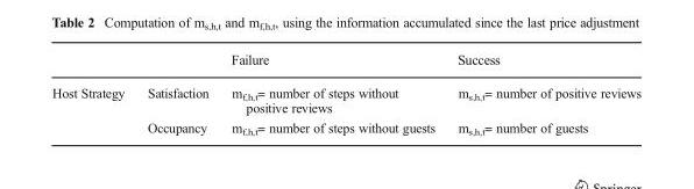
<table><thead><tr><td></td><td></td><td>Failure</td><td>Success</td></tr></thead><tbody><tr><td rowspan="2">Host Strategy</td><td>Satisfaction</td><td>m<sub>f,h,t</sub>= number of steps without positive reviews</td><td>m<sub>s,h,t</sub>= number of positive reviews</td></tr><tr><td>Occupancy</td><td>m<sub>f,h,t</sub>= number of steps without guests</td><td>m<sub>s,h,t</sub>= number of guests</td></tr></tbody></table>